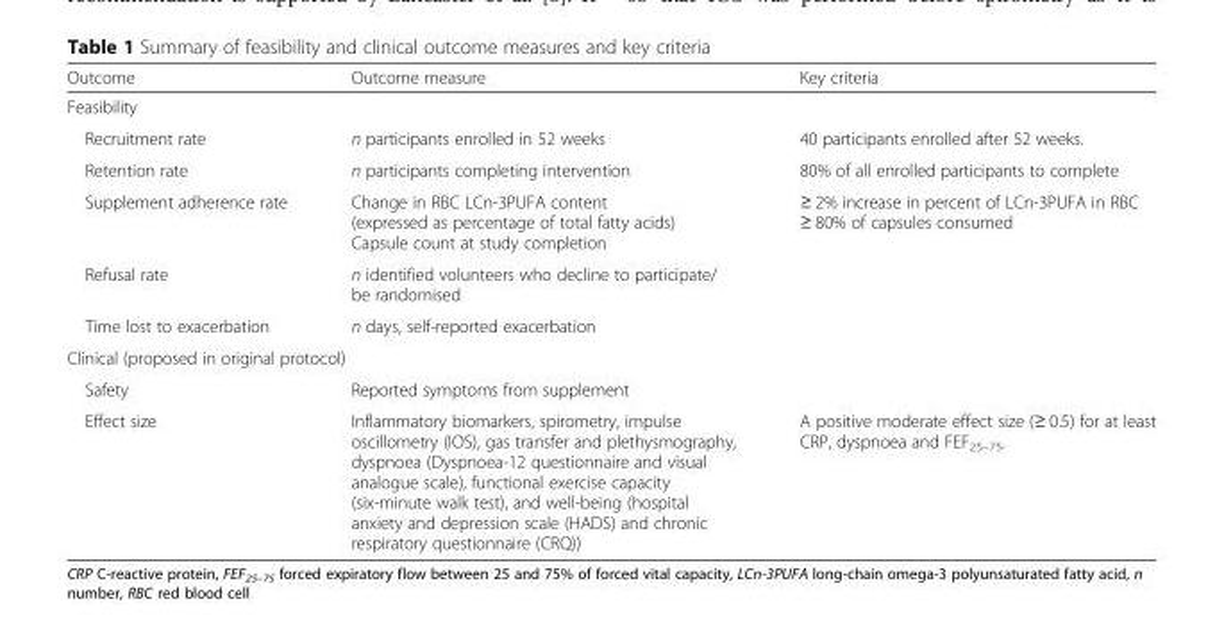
<table><thead><tr><td>Outcome</td><td>Outcome measure</td><td>Key criteria</td></tr></thead><tbody><tr><td colspan="3">Feasibility</td></tr><tr><td>Recruitment rate</td><td>n participants enrolled in 52 weeks</td><td>40 participants enrolled after 52 weeks.</td></tr><tr><td>Retention rate</td><td>n participants completing intervention</td><td>80% of all enrolled participants to complete</td></tr><tr><td>Supplement adherence rate</td><td>Change in RBC LCn-3PUFA content (expressed as percentage of total fatty acids) Capsule count at study completion</td><td>≥ 2% increase in percent of LCn-3PUFA in RBC ≥ 80% of capsules consumed</td></tr><tr><td>Refusal rate</td><td>n identified volunteers who decline to participate/ be randomised</td><td></td></tr><tr><td>Time lost to exacerbation</td><td>n days, self-reported exacerbation</td><td></td></tr><tr><td colspan="3">Clinical (proposed in original protocol)</td></tr><tr><td>Safety</td><td>Reported symptoms from supplement</td><td></td></tr><tr><td>Effect size</td><td>Inflammatory biomarkers, spirometry, impulse oscillometry (IOS), gas transfer and plethysmography, dyspnoea (Dyspnoea-12 questionnaire and visual analogue scale), functional exercise capacity (six-minute walk test), and well-being (hospital anxiety and depression scale (HADS) and chronic respiratory questionnaire (CRQ))</td><td>A positive moderate effect size (≥ 0.5) for at least CRP, dyspnoea and FEF<sub>25–75</sub>.</td></tr></tbody></table>